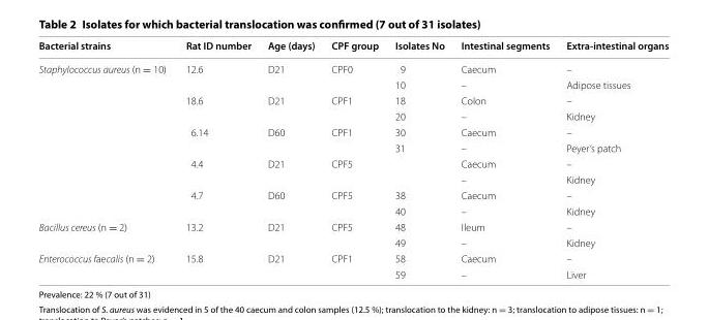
<table><thead><tr><td>Bacterial strains</td><td>Rat ID number</td><td>Age (days)</td><td>CPF group</td><td>Isolates No</td><td>Intestinal segments</td><td>Extra-intestinal organs</td></tr></thead><tbody><tr><td rowspan="10">Staphylococcus aureus (n = 10)</td><td rowspan="2">12.6</td><td rowspan="2">D21</td><td rowspan="2">CPF0</td><td>9</td><td>Caecum</td><td>–</td></tr><tr><td>10</td><td>–</td><td>Adipose tissues</td></tr><tr><td rowspan="2">18.6</td><td rowspan="2">D21</td><td rowspan="2">CPF1</td><td>18</td><td>Colon</td><td>–</td></tr><tr><td>20</td><td>–</td><td>Kidney</td></tr><tr><td rowspan="2">6.14</td><td rowspan="2">D60</td><td rowspan="2">CPF1</td><td>30</td><td>Caecum</td><td>–</td></tr><tr><td>31</td><td>–</td><td>Peyer’s patch</td></tr><tr><td rowspan="2">4.4</td><td rowspan="2">D21</td><td rowspan="2">CPF5</td><td></td><td>Caecum</td><td>–</td></tr><tr><td></td><td>–</td><td>Kidney</td></tr><tr><td rowspan="2">4.7</td><td rowspan="2">D60</td><td rowspan="2">CPF5</td><td>38</td><td>Caecum</td><td>–</td></tr><tr><td>40</td><td>–</td><td>Kidney</td></tr><tr><td rowspan="2">Bacillus cereus (n = 2)</td><td rowspan="2">13.2</td><td rowspan="2">D21</td><td rowspan="2">CPF5</td><td>48</td><td>Ileum</td><td>–</td></tr><tr><td>49</td><td>–</td><td>Kidney</td></tr><tr><td rowspan="2">Enterococcus faecalis (n = 2)</td><td rowspan="2">15.8</td><td rowspan="2">D21</td><td rowspan="2">CPF1</td><td>58</td><td>Caecum</td><td>–</td></tr><tr><td>59</td><td>–</td><td>Liver</td></tr></tbody></table>